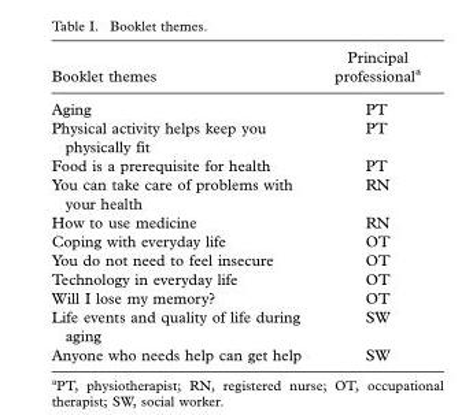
<table><thead><tr><td>Booklet themes</td><td>Principal professional<sup>a</sup></td></tr></thead><tbody><tr><td>Aging</td><td>PT</td></tr><tr><td>Physical activity helps keep you physically fit</td><td>PT</td></tr><tr><td>Food is a prerequisite for health</td><td>PT</td></tr><tr><td>You can take care of problems with your health</td><td>RN</td></tr><tr><td>How to use medicine</td><td>RN</td></tr><tr><td>Coping with everyday life</td><td>OT</td></tr><tr><td>You do not need to feel insecure</td><td>OT</td></tr><tr><td>Technology in everyday life</td><td>OT</td></tr><tr><td>Will I lose my memory?</td><td>OT</td></tr><tr><td>Life events and quality of life during aging</td><td>SW</td></tr><tr><td>Anyone who needs help can get help</td><td>SW</td></tr></tbody></table>